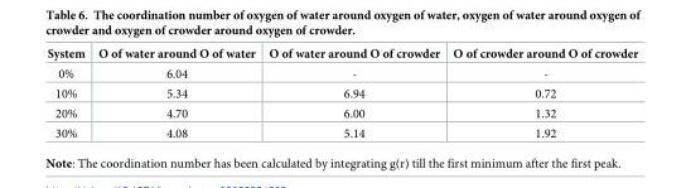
<table><thead><tr><td>System</td><td>O of water around O of water</td><td>O of water around O of crowder</td><td>O of crowder around O of crowder</td></tr></thead><tbody><tr><td>0%</td><td>6.04</td><td>-</td><td>-</td></tr><tr><td>10%</td><td>5.34</td><td>6.94</td><td>0.72</td></tr><tr><td>20%</td><td>4.70</td><td>6.00</td><td>1.32</td></tr><tr><td>30%</td><td>4.08</td><td>5.14</td><td>1.92</td></tr></tbody></table>